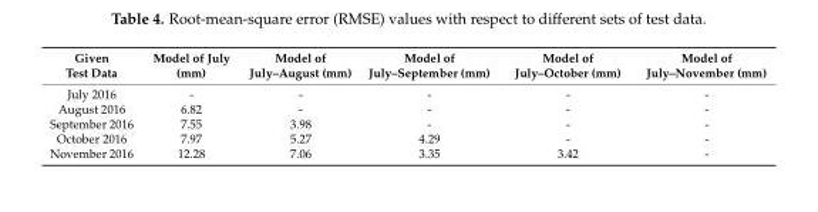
<table><thead><tr><td>Given Test Data</td><td>Model of July (mm)</td><td>Model of July–August (mm)</td><td>Model of July–September (mm)</td><td>Model of July–October (mm)</td><td>Model of July–November (mm)</td></tr></thead><tbody><tr><td>July 2016</td><td>-</td><td>-</td><td>-</td><td>-</td><td>-</td></tr><tr><td>August 2016</td><td>6.82</td><td>-</td><td>-</td><td>-</td><td>-</td></tr><tr><td>September 2016</td><td>7.55</td><td>3.98</td><td>-</td><td>-</td><td>-</td></tr><tr><td>October 2016</td><td>7.97</td><td>5.27</td><td>4.29</td><td>-</td><td>-</td></tr><tr><td>November 2016</td><td>12.28</td><td>7.06</td><td>3.35</td><td>3.42</td><td>-</td></tr></tbody></table>